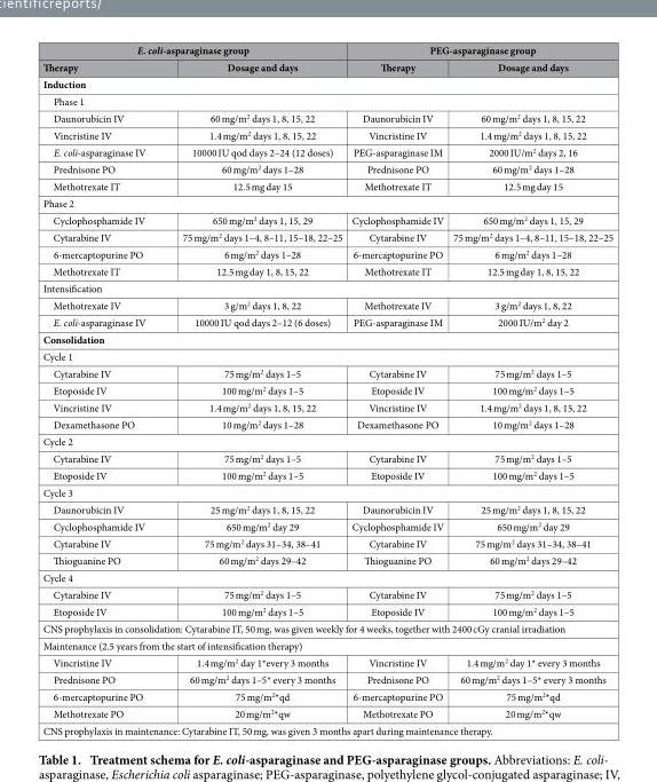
<table><thead><tr><td colspan="2">E. coli-asparaginase group</td><td colspan="2">PEG-asparaginase group</td></tr><tr><td>Therapy</td><td>Dosage and days</td><td>Therapy</td><td>Dosage and days</td></tr></thead><tbody><tr><td colspan="4">Induction</td></tr><tr><td colspan="4">Phase 1</td></tr><tr><td>Daunorubicin IV</td><td>60 mg/m<sup>2</sup> days 1, 8, 15, 22</td><td>Daunorubicin IV</td><td>60 mg/m<sup>2</sup> days 1, 8, 15, 22</td></tr><tr><td>Vincristine IV</td><td>1.4 mg/m<sup>2</sup> days 1, 8, 15, 22</td><td>Vincristine IV</td><td>1.4 mg/m<sup>2</sup> days 1, 8, 15, 22</td></tr><tr><td>E. coli-asparaginase IV</td><td>10000 IU qod days 2–24 (12 doses)</td><td>PEG-asparaginase IM</td><td>2000 IU/m<sup>2</sup> days 2, 16</td></tr><tr><td>Prednisone PO</td><td>60 mg/m<sup>2</sup> days 1–28</td><td>Prednisone PO</td><td>60 mg/m<sup>2</sup> days 1–28</td></tr><tr><td>Methotrexate IT</td><td>12.5 mg day 15</td><td>Methotrexate IT</td><td>12.5 mg day 15</td></tr><tr><td colspan="4">Phase 2</td></tr><tr><td>Cyclophosphamide IV</td><td>650 mg/m<sup>2</sup> days 1, 15, 29</td><td>Cyclophosphamide IV</td><td>650 mg/m<sup>2</sup> days 1, 15, 29</td></tr><tr><td>Cytarabine IV</td><td>75 mg/m<sup>2</sup> days 1–4, 8–11, 15–18, 22–25</td><td>Cytarabine IV</td><td>75 mg/m<sup>2</sup> days 1–4, 8–11, 15–18, 22–25</td></tr><tr><td>6-mercaptopurine PO</td><td>6 mg/m<sup>2</sup> days 1–28</td><td>6-mercaptopurine PO</td><td>6 mg/m<sup>2</sup> days 1–28</td></tr><tr><td>Methotrexate IT</td><td>12.5 mg day 1, 8, 15, 22</td><td>Methotrexate IT</td><td>12.5 mg day 1, 8, 15, 22</td></tr><tr><td colspan="4">Intensification</td></tr><tr><td>Methotrexate IV</td><td>3 g/m<sup>2</sup> days 1, 8, 22</td><td>Methotrexate IV</td><td>3 g/m<sup>2</sup> days 1, 8, 22</td></tr><tr><td>E. coli-asparaginase IV</td><td>10000 IU qod days 2–12 (6 doses)</td><td>PEG-asparaginase IM</td><td>2000 IU/m<sup>2</sup> day 2</td></tr><tr><td colspan="4">Consolidation</td></tr><tr><td colspan="4">Cycle 1</td></tr><tr><td>Cytarabine IV</td><td>75 mg/m<sup>2</sup> days 1–5</td><td>Cytarabine IV</td><td>75 mg/m<sup>2</sup> days 1–5</td></tr><tr><td>Etoposide IV</td><td>100 mg/m<sup>2</sup> days 1–5</td><td>Etoposide IV</td><td>100 mg/m<sup>2</sup> days 1–5</td></tr><tr><td>Vincristine IV</td><td>1.4 mg/m<sup>2</sup> days 1, 8, 15, 22</td><td>Vincristine IV</td><td>1.4 mg/m<sup>2</sup> days 1, 8, 15, 22</td></tr><tr><td>Dexamethasone PO</td><td>10 mg/m<sup>2</sup> days 1–28</td><td>Dexamethasone PO</td><td>10 mg/m<sup>2</sup> days 1–28</td></tr><tr><td colspan="4">Cycle 2</td></tr><tr><td>Cytarabine IV</td><td>75 mg/m<sup>2</sup> days 1–5</td><td>Cytarabine IV</td><td>75 mg/m<sup>2</sup> days 1–5</td></tr><tr><td>Etoposide IV</td><td>100 mg/m<sup>2</sup> days 1–5</td><td>Etoposide IV</td><td>100 mg/m<sup>2</sup> days 1–5</td></tr><tr><td colspan="4">Cycle 3</td></tr><tr><td>Daunorubicin IV</td><td>25 mg/m<sup>2</sup> days 1, 8, 15, 22</td><td>Daunorubicin IV</td><td>25 mg/m<sup>2</sup> days 1, 8, 15, 22</td></tr><tr><td>Cyclophosphamide IV</td><td>650 mg/m<sup>2</sup> day 29</td><td>Cyclophosphamide IV</td><td>650 mg/m<sup>2</sup> day 29</td></tr><tr><td>Cytarabine IV</td><td>75 mg/m<sup>2</sup> days 31–34, 38–41</td><td>Cytarabine IV</td><td>75 mg/m<sup>2</sup> days 31–34, 38–41</td></tr><tr><td>Thioguanine PO</td><td>60 mg/m<sup>2</sup> days 29–42</td><td>Thioguanine PO</td><td>60 mg/m<sup>2</sup> days 29–42</td></tr><tr><td colspan="4">Cycle 4</td></tr><tr><td>Cytarabine IV</td><td>75 mg/m<sup>2</sup> days 1–5</td><td>Cytarabine IV</td><td>75 mg/m<sup>2</sup> days 1–5</td></tr><tr><td>Etoposide IV</td><td>100 mg/m<sup>2</sup> days 1–5</td><td>Etoposide IV</td><td>100 mg/m<sup>2</sup> days 1–5</td></tr><tr><td colspan="4">CNS prophylaxis in consolidation: Cytarabine IT, 50 mg, was given weekly for 4 weeks, together with 2400 cGy cranial irradiation</td></tr><tr><td colspan="4">Maintenance (2.5 years from the start of intensification therapy)</td></tr><tr><td>Vincristine IV</td><td>1.4 mg/m<sup>2</sup> day 1*every 3 months</td><td>Vincristine IV</td><td>1.4 mg/m<sup>2</sup> day 1* every 3 months</td></tr><tr><td>Prednisone PO</td><td>60 mg/m<sup>2</sup> days 1–5* every 3 months</td><td>Prednisone PO</td><td>60 mg/m<sup>2</sup> days 1–5* every 3 months</td></tr><tr><td>6-mercaptopurine PO</td><td>75 mg/m<sup>2</sup>*qd</td><td>6-mercaptopurine PO</td><td>75 mg/m<sup>2</sup>*qd</td></tr><tr><td>Methotrexate PO</td><td>20 mg/m<sup>2</sup>*qw</td><td>Methotrexate PO</td><td>20 mg/m<sup>2</sup>*qw</td></tr><tr><td colspan="4">CNS prophylaxis in maintenance: Cytarabine IT, 50 mg, was given 3 months apart during maintenance therapy.</td></tr></tbody></table>